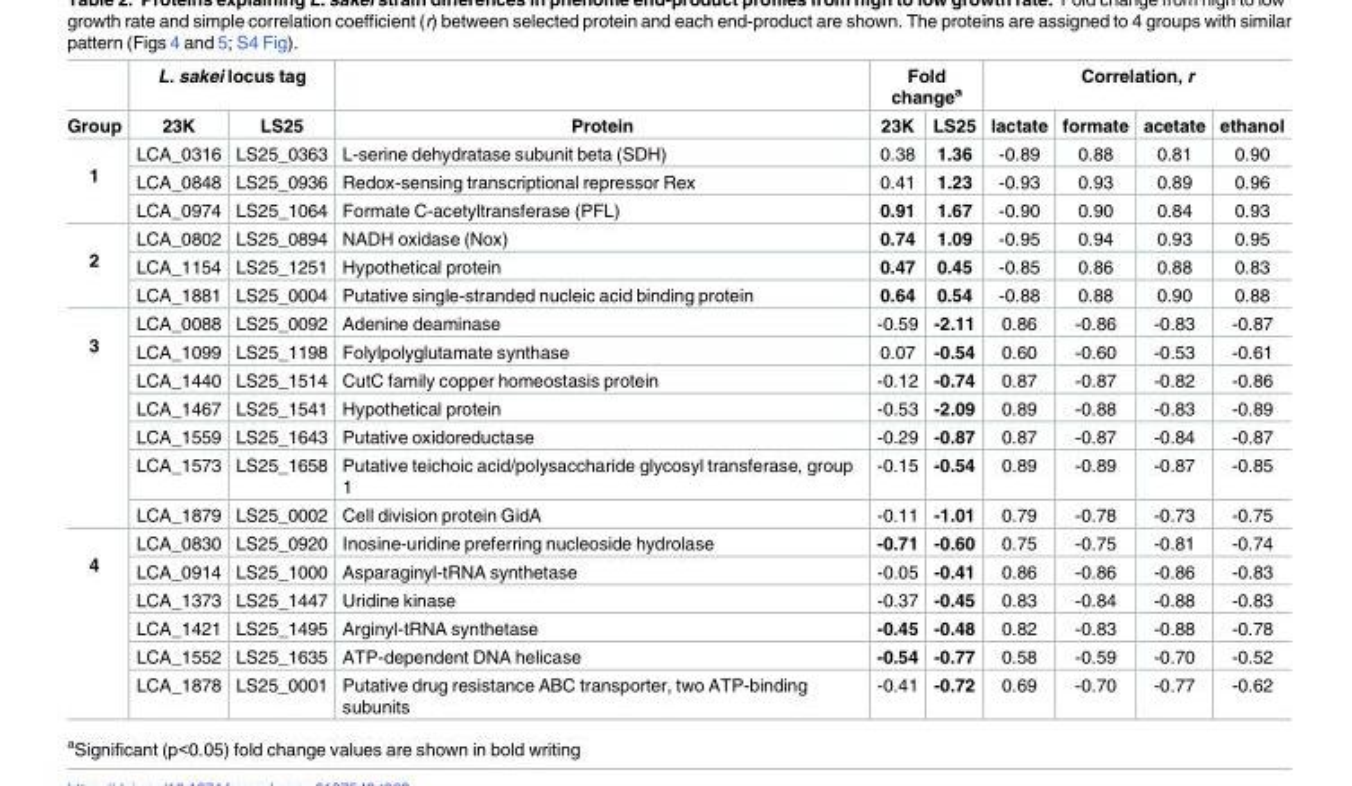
<table><thead><tr><td rowspan="2">Group</td><td colspan="2">L. sakei locus tag</td><td rowspan="2">Protein</td><td colspan="2">Fold change<sup>a</sup></td><td colspan="4">Correlation, r</td></tr><tr><td>23K</td><td>LS25</td><td>23K</td><td>LS25</td><td>lactate</td><td>formate</td><td>acetate</td><td>ethanol</td></tr></thead><tbody><tr><td rowspan="3">1</td><td>LCA_0316</td><td>LS25_0363</td><td>L-serine dehydratase subunit beta (SDH)</td><td>0.38</td><td>1.36</td><td>-0.89</td><td>0.88</td><td>0.81</td><td>0.90</td></tr><tr><td>LCA_0848</td><td>LS25_0936</td><td>Redox-sensing transcriptional repressor Rex</td><td>0.41</td><td>1.23</td><td>-0.93</td><td>0.93</td><td>0.89</td><td>0.96</td></tr><tr><td>LCA_0974</td><td>LS25_1064</td><td>Formate C-acetyltransferase (PFL)</td><td>0.91</td><td>1.67</td><td>-0.90</td><td>0.90</td><td>0.84</td><td>0.93</td></tr><tr><td rowspan="3">2</td><td>LCA_0802</td><td>LS25_0894</td><td>NADH oxidase (Nox)</td><td>0.74</td><td>1.09</td><td>-0.95</td><td>0.94</td><td>0.93</td><td>0.95</td></tr><tr><td>LCA_1154</td><td>LS25_1251</td><td>Hypothetical protein</td><td>0.47</td><td>0.45</td><td>-0.85</td><td>0.86</td><td>0.88</td><td>0.83</td></tr><tr><td>LCA_1881</td><td>LS25_0004</td><td>Putative single-stranded nucleic acid binding protein</td><td>0.64</td><td>0.54</td><td>-0.88</td><td>0.88</td><td>0.90</td><td>0.88</td></tr><tr><td rowspan="7">3</td><td>LCA_0088</td><td>LS25_0092</td><td>Adenine deaminase</td><td>-0.59</td><td>-2.11</td><td>0.86</td><td>-0.86</td><td>-0.83</td><td>-0.87</td></tr><tr><td>LCA_1099</td><td>LS25_1198</td><td>Folylpolyglutamate synthase</td><td>0.07</td><td>-0.54</td><td>0.60</td><td>-0.60</td><td>-0.53</td><td>-0.61</td></tr><tr><td>LCA_1440</td><td>LS25_1514</td><td>CutC family copper homeostasis protein</td><td>-0.12</td><td>-0.74</td><td>0.87</td><td>-0.87</td><td>-0.82</td><td>-0.86</td></tr><tr><td>LCA_1467</td><td>LS25_1541</td><td>Hypothetical protein</td><td>-0.53</td><td>-2.09</td><td>0.89</td><td>-0.88</td><td>-0.83</td><td>-0.89</td></tr><tr><td>LCA_1559</td><td>LS25_1643</td><td>Putative oxidoreductase</td><td>-0.29</td><td>-0.87</td><td>0.87</td><td>-0.87</td><td>-0.84</td><td>-0.87</td></tr><tr><td>LCA_1573</td><td>LS25_1658</td><td>Putative teichoic acid/polysaccharide glycosyl transferase, group 1</td><td>-0.15</td><td>-0.54</td><td>0.89</td><td>-0.89</td><td>-0.87</td><td>-0.85</td></tr><tr><td>LCA_1879</td><td>LS25_0002</td><td>Cell division protein GidA</td><td>-0.11</td><td>-1.01</td><td>0.79</td><td>-0.78</td><td>-0.73</td><td>-0.75</td></tr><tr><td rowspan="6">4</td><td>LCA_0830</td><td>LS25_0920</td><td>Inosine-uridine preferring nucleoside hydrolase</td><td>-0.71</td><td>-0.60</td><td>0.75</td><td>-0.75</td><td>-0.81</td><td>-0.74</td></tr><tr><td>LCA_0914</td><td>LS25_1000</td><td>Asparaginyl-tRNA synthetase</td><td>-0.05</td><td>-0.41</td><td>0.86</td><td>-0.86</td><td>-0.86</td><td>-0.83</td></tr><tr><td>LCA_1373</td><td>LS25_1447</td><td>Uridine kinase</td><td>-0.37</td><td>-0.45</td><td>0.83</td><td>-0.84</td><td>-0.88</td><td>-0.83</td></tr><tr><td>LCA_1421</td><td>LS25_1495</td><td>Arginyl-tRNA synthetase</td><td>-0.45</td><td>-0.48</td><td>0.82</td><td>-0.83</td><td>-0.88</td><td>-0.78</td></tr><tr><td>LCA_1552</td><td>LS25_1635</td><td>ATP-dependent DNA helicase</td><td>-0.54</td><td>-0.77</td><td>0.58</td><td>-0.59</td><td>-0.70</td><td>-0.52</td></tr><tr><td>LCA_1878</td><td>LS25_0001</td><td>Putative drug resistance ABC transporter, two ATP-binding subunits</td><td>-0.41</td><td>-0.72</td><td>0.69</td><td>-0.70</td><td>-0.77</td><td>-0.62</td></tr></tbody></table>